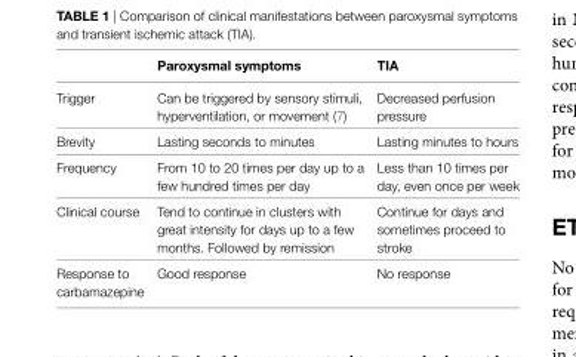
<table><thead><tr><td></td><td>paroxysmal symptoms</td><td>tIa</td></tr></thead><tbody><tr><td>Trigger</td><td>Can be triggered by sensory stimuli, hyperventilation, or movement (7)</td><td>Decreased perfusion pressure</td></tr><tr><td>Brevity</td><td>Lasting seconds to minutes</td><td>Lasting minutes to hours</td></tr><tr><td>Frequency</td><td>From 10 to 20 times per day up to a few hundred times per day</td><td>Less than 10 times per day, even once per week</td></tr><tr><td>Clinical course</td><td>Tend to continue in clusters with great intensity for days up to a few months. Followed by remission</td><td>Continue for days and sometimes proceed to stroke</td></tr><tr><td>Response to carbamazepine</td><td>Good response</td><td>No response</td></tr></tbody></table>